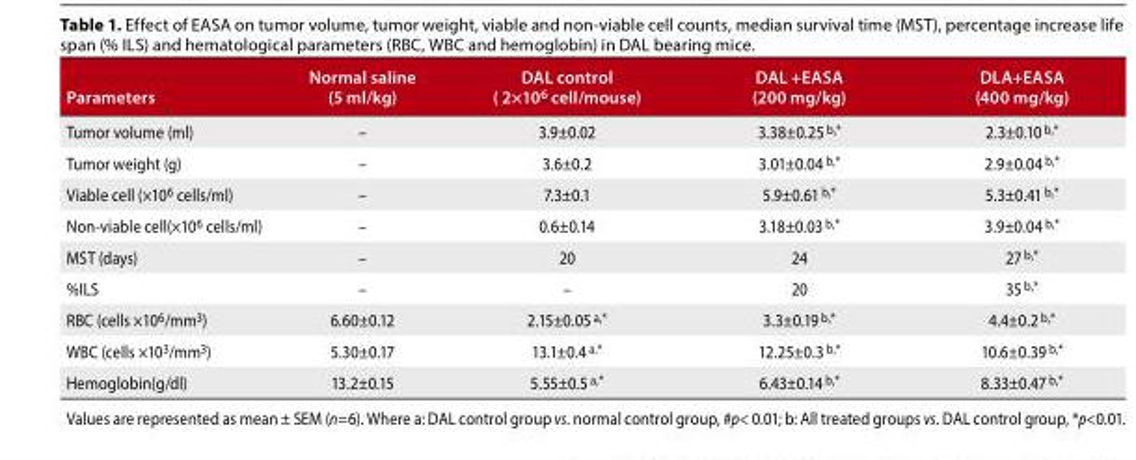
<table><thead><tr><td>Parameters</td><td>Normal saline (5 ml/kg)</td><td>DAL control ( 2×10<sup>6</sup> cell/mouse)</td><td>DAL +EASA (200 mg/kg)</td><td>DLA+EASA (400 mg/kg)</td></tr></thead><tbody><tr><td>Tumor volume (ml)</td><td>–</td><td>3.9±0.02</td><td>3.38±0.25 <sup>b,</sup>*</td><td>2.3±0.10 <sup>b,</sup>*</td></tr><tr><td>Tumor weight (g)</td><td>–</td><td>3.6±0.2</td><td>3.01±0.04 <sup>b,</sup>*</td><td>2.9±0.04 <sup>b,</sup>*</td></tr><tr><td>Viable cell (×106 cells/ml)</td><td>–</td><td>7.3±0.1</td><td>5.9±0.61 <sup>b,</sup>*</td><td>5.3±0.41 <sup>b,</sup>*</td></tr><tr><td>Non-viable cell(×106 cells/ml)</td><td>–</td><td>0.6±0.14</td><td>3.18±0.03 <sup>b,</sup>*</td><td>3.9±0.04 <sup>b,</sup>*</td></tr><tr><td>MST (days)</td><td>–</td><td>20</td><td>24</td><td>27 <sup>b,</sup>*</td></tr><tr><td>%ILS</td><td>–</td><td>–</td><td>20</td><td>35 <sup>b,</sup>*</td></tr><tr><td>RBC (cells ×106/mm3)</td><td>6.60±0.12</td><td>2.15±0.05 <sup>a,</sup>*</td><td>3.3±0.19 <sup>b,</sup>*</td><td>4.4±0.2 <sup>b,</sup>*</td></tr><tr><td>WBC (cells ×103/mm3)</td><td>5.30±0.17</td><td>13.1±0.4 <sup>a,</sup>*</td><td>12.25±0.3 <sup>b,</sup>*</td><td>10.6±0.39 <sup>b,</sup>*</td></tr><tr><td>Hemoglobin(g/dl)</td><td>13.2±0.15</td><td>5.55±0.5 <sup>a,</sup>*</td><td>6.43±0.14 <sup>b,</sup>*</td><td>8.33±0.47 <sup>b,</sup>*</td></tr></tbody></table>